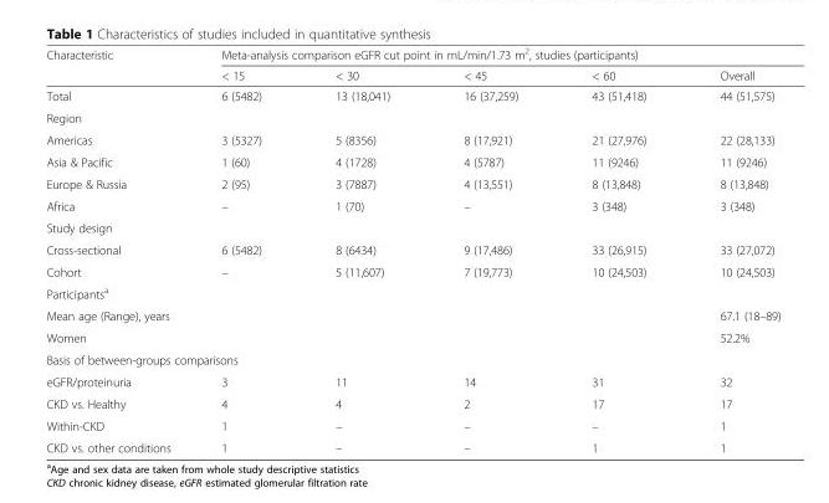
<table><thead><tr><td rowspan="2">Characteristic</td><td colspan="5">Meta-analysis comparison eGFR cut point in mL/min/1.73 m<sup>2</sup>, studies (participants)</td></tr><tr><td>&lt; 15</td><td>&lt; 30</td><td>&lt; 45</td><td>&lt; 60</td><td>Overall</td></tr></thead><tbody><tr><td>Total</td><td>6 (5482)</td><td>13 (18,041)</td><td>16 (37,259)</td><td>43 (51,418)</td><td>44 (51,575)</td></tr><tr><td colspan="6">Region</td></tr><tr><td>Americas</td><td>3 (5327)</td><td>5 (8356)</td><td>8 (17,921)</td><td>21 (27,976)</td><td>22 (28,133)</td></tr><tr><td>Asia &amp; Pacific</td><td>1 (60)</td><td>4 (1728)</td><td>4 (5787)</td><td>11 (9246)</td><td>11 (9246)</td></tr><tr><td>Europe &amp; Russia</td><td>2 (95)</td><td>3 (7887)</td><td>4 (13,551)</td><td>8 (13,848)</td><td>8 (13,848)</td></tr><tr><td>Africa</td><td>–</td><td>1 (70)</td><td>–</td><td>3 (348)</td><td>3 (348)</td></tr><tr><td colspan="6">Study design</td></tr><tr><td>Cross-sectional</td><td>6 (5482)</td><td>8 (6434)</td><td>9 (17,486)</td><td>33 (26,915)</td><td>33 (27,072)</td></tr><tr><td>Cohort</td><td>–</td><td>5 (11,607)</td><td>7 (19,773)</td><td>10 (24,503)</td><td>10 (24,503)</td></tr><tr><td colspan="6">Participants<sup>a</sup></td></tr><tr><td>Mean age (Range), years</td><td></td><td></td><td></td><td></td><td>67.1 (18–89)</td></tr><tr><td>Women</td><td></td><td></td><td></td><td></td><td>52.2%</td></tr><tr><td colspan="6">Basis of between-groups comparisons</td></tr><tr><td>eGFR/proteinuria</td><td>3</td><td>11</td><td>14</td><td>31</td><td>32</td></tr><tr><td>CKD vs. Healthy</td><td>4</td><td>4</td><td>2</td><td>17</td><td>17</td></tr><tr><td>Within-CKD</td><td>1</td><td>–</td><td>–</td><td>–</td><td>1</td></tr><tr><td>CKD vs. other conditions</td><td>1</td><td>–</td><td>–</td><td>1</td><td>1</td></tr></tbody></table>